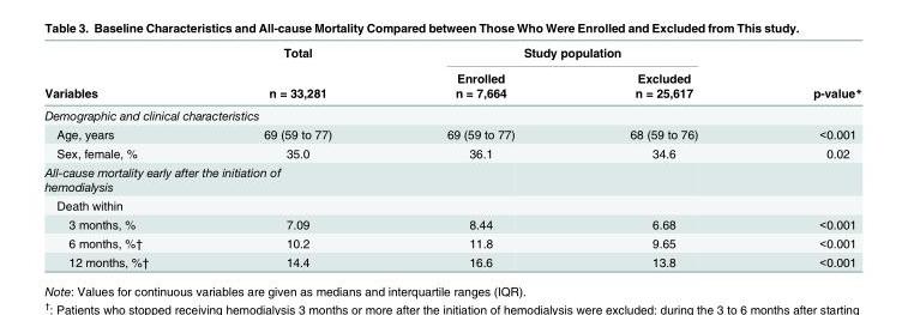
<table><thead><tr><td rowspan="3">Variables</td><td rowspan="3">Total n = 33,281</td><td colspan="2">Study population</td><td rowspan="3">p-value*</td></tr><tr><td rowspan="2">Enrolled n = 7,664</td><td rowspan="2">Excluded n = 25,617</td></tr><tr></tr></thead><tbody><tr><td colspan="5">Demographic and clinical characteristics</td></tr><tr><td>Age, years</td><td>69 (59 to 77)</td><td>69 (59 to 77)</td><td>68 (59 to 76)</td><td>&lt;0.001</td></tr><tr><td>Sex, female, %</td><td>35.0</td><td>36.1</td><td>34.6</td><td>0.02</td></tr><tr><td colspan="5">All-cause mortality early after the initiation of hemodialysis</td></tr><tr><td colspan="5">Death within</td></tr><tr><td>3 months, %</td><td>7.09</td><td>8.44</td><td>6.68</td><td>&lt;0.001</td></tr><tr><td>6 months, %†</td><td>10.2</td><td>11.8</td><td>9.65</td><td>&lt;0.001</td></tr><tr><td>12 months, %†</td><td>14.4</td><td>16.6</td><td>13.8</td><td>&lt;0.001</td></tr></tbody></table>